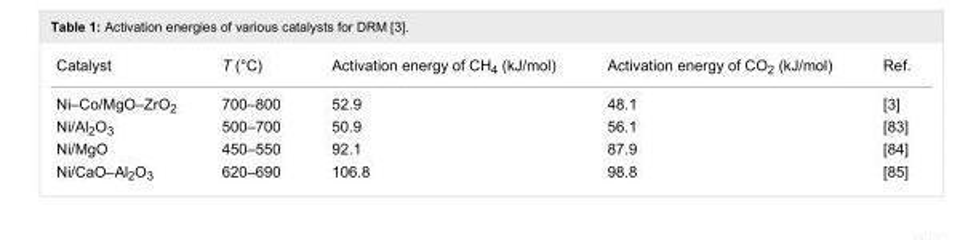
<table><tbody><tr><td>Catalyst</td><td>T (°C)</td><td>Activation energy of CH<sub>4</sub> (kJ/mol)</td><td>Activation energy of CO<sub>2</sub> (kJ/mol)</td><td>Ref.</td></tr><tr><td>Ni–Co/MgO–ZrO<sub>2</sub></td><td>700–800</td><td>52.9</td><td>48.1</td><td>[3]</td></tr><tr><td>Ni/Al<sub>2</sub>O<sub>3</sub></td><td>500–700</td><td>50.9</td><td>56.1</td><td>[83]</td></tr><tr><td>Ni/MgO</td><td>450–550</td><td>92.1</td><td>87.9</td><td>[84]</td></tr><tr><td>Ni/CaO–Al<sub>2</sub>O<sub>3</sub></td><td>620–690</td><td>106.8</td><td>98.8</td><td>[85]</td></tr></tbody></table>